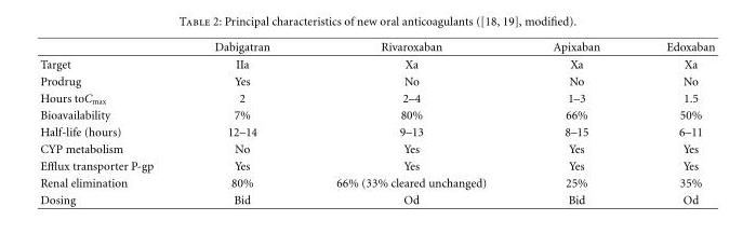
<table><thead><tr><td></td><td>Dabigatran</td><td>Rivaroxaban</td><td>Apixaban</td><td>Edoxaban</td></tr></thead><tbody><tr><td>Target</td><td>IIa</td><td>Xa</td><td>Xa</td><td>Xa</td></tr><tr><td>Prodrug</td><td>Yes</td><td>No</td><td>No</td><td>No</td></tr><tr><td>Hours toC<sub>max</sub></td><td>2</td><td>2–4</td><td>1–3</td><td>1.5</td></tr><tr><td>Bioavailability</td><td>7%</td><td>80%</td><td>66%</td><td>50%</td></tr><tr><td>Half-life (hours)</td><td>12–14</td><td>9–13</td><td>8–15</td><td>6–11</td></tr><tr><td>CYP metabolism</td><td>No</td><td>Yes</td><td>Yes</td><td>Yes</td></tr><tr><td>Efflux transporter P-gp</td><td>Yes</td><td>Yes</td><td>Yes</td><td>Yes</td></tr><tr><td>Renal elimination</td><td>80%</td><td>66% (33% cleared unchanged)</td><td>25%</td><td>35%</td></tr><tr><td>Dosing</td><td>Bid</td><td>Od</td><td>Bid</td><td>Od</td></tr></tbody></table>